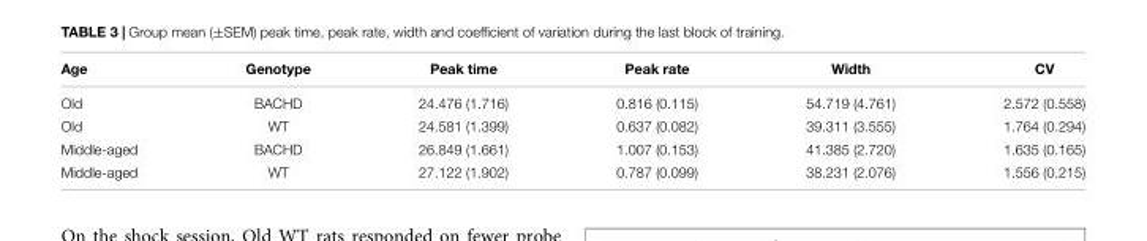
<table><thead><tr><td>Age</td><td>Genotype</td><td>Peak time</td><td>Peak rate</td><td>Width</td><td>CV</td></tr></thead><tbody><tr><td>Old</td><td>BACHD</td><td>24.476 (1.716)</td><td>0.816 (0.115)</td><td>54.719 (4.761)</td><td>2.572 (0.558)</td></tr><tr><td>Old</td><td>WT</td><td>24.581 (1.399)</td><td>0.637 (0.082)</td><td>39.311 (3.555)</td><td>1.764 (0.294)</td></tr><tr><td>Middle-aged</td><td>BACHD</td><td>26.849 (1.661)</td><td>1.007 (0.153)</td><td>41.385 (2.720)</td><td>1.635 (0.165)</td></tr><tr><td>Middle-aged</td><td>WT</td><td>27.122 (1.902)</td><td>0.787 (0.099)</td><td>38.231 (2.076)</td><td>1.556 (0.215)</td></tr></tbody></table>